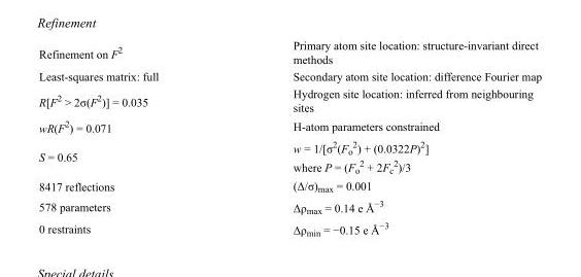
<table><tbody><tr><td>Refinement on F<sup>2</sup></td><td>Primary atom site location: structure-invariant direct methods</td></tr><tr><td>Least-squares matrix: full</td><td>Secondary atom site location: difference Fourier map</td></tr><tr><td>R[F<sup>2</sup> &gt; 2σ(F<sup>2</sup>)] = 0.035</td><td>Hydrogen site location: inferred from neighbouring sites</td></tr><tr><td>wR(F<sup>2</sup>) = 0.071</td><td>H-atom parameters constrained</td></tr><tr><td>S = 0.65</td><td>w = 1/[σ<sup>2</sup>(F<sub>o</sub> <sup>2</sup>) + (0.0322P)<sup>2</sup>] where P = (F<sub>o</sub> <sup>2</sup> + 2F<sub>c</sub> <sup>2</sup>)/3</td></tr><tr><td>8417 reflections</td><td>(Δ/σ)<sub>max</sub> = 0.001</td></tr><tr><td>578 parameters</td><td>Δρ<sub>max</sub> = 0.14 e Å<sup>−3</sup></td></tr><tr><td>0 restraints</td><td>Δρ<sub>min</sub> = −0.15 e Å<sup>−3</sup></td></tr></tbody></table>